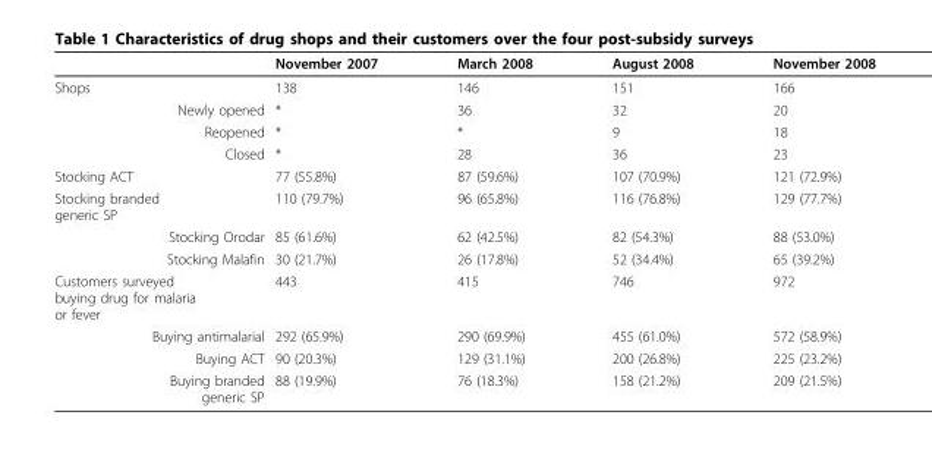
<table><thead><tr><td></td><td>November 2007</td><td>March 2008</td><td>August 2008</td><td>November 2008</td></tr></thead><tbody><tr><td>Shops</td><td>138</td><td>146</td><td>151</td><td>166</td></tr><tr><td>Newly opened</td><td>*</td><td>36</td><td>32</td><td>20</td></tr><tr><td>Reopened</td><td>*</td><td>*</td><td>9</td><td>18</td></tr><tr><td>Closed</td><td>*</td><td>28</td><td>36</td><td>23</td></tr><tr><td>Stocking ACT</td><td>77 (55.8%)</td><td>87 (59.6%)</td><td>107 (70.9%)</td><td>121 (72.9%)</td></tr><tr><td>Stocking branded generic SP</td><td>110 (79.7%)</td><td>96 (65.8%)</td><td>116 (76.8%)</td><td>129 (77.7%)</td></tr><tr><td>Stocking Orodar</td><td>85 (61.6%)</td><td>62 (42.5%)</td><td>82 (54.3%)</td><td>88 (53.0%)</td></tr><tr><td>Stocking Malafin</td><td>30 (21.7%)</td><td>26 (17.8%)</td><td>52 (34.4%)</td><td>65 (39.2%)</td></tr><tr><td>Customers surveyed buying drug for malaria or fever</td><td>443</td><td>415</td><td>746</td><td>972</td></tr><tr><td>Buying antimalarial</td><td>292 (65.9%)</td><td>290 (69.9%)</td><td>455 (61.0%)</td><td>572 (58.9%)</td></tr><tr><td>Buying ACT</td><td>90 (20.3%)</td><td>129 (31.1%)</td><td>200 (26.8%)</td><td>225 (23.2%)</td></tr><tr><td>Buying branded generic SP</td><td>88 (19.9%)</td><td>76 (18.3%)</td><td>158 (21.2%)</td><td>209 (21.5%)</td></tr></tbody></table>